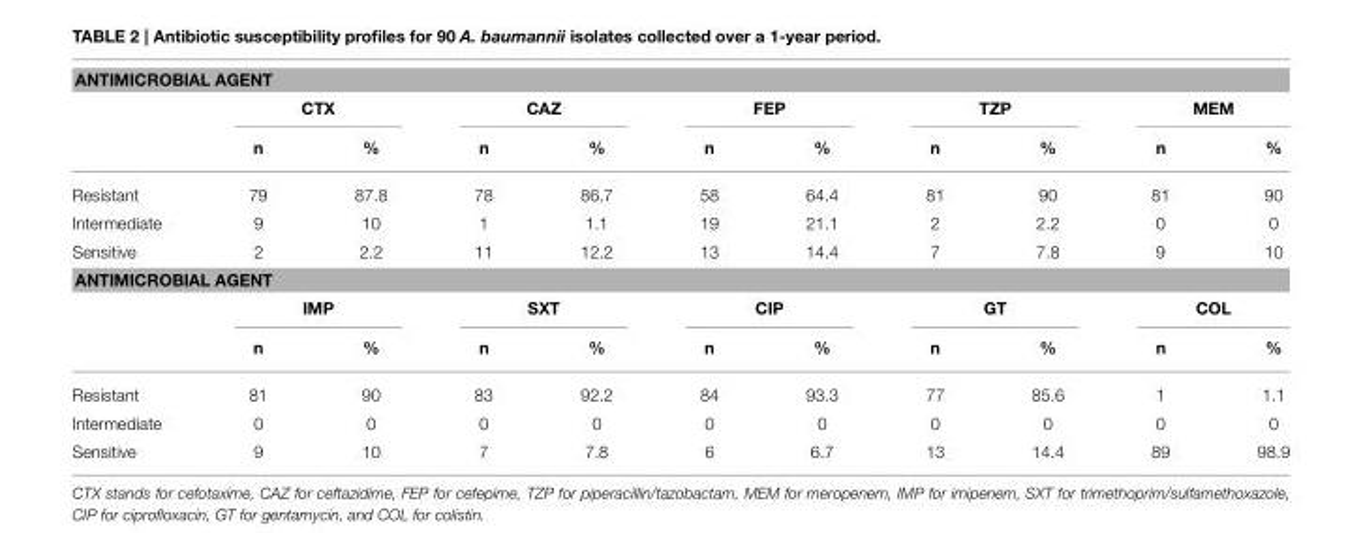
<table><thead><tr><td colspan="11">ANTIMICROBIAL AGENT</td></tr><tr><td rowspan="2"></td><td colspan="2">CTX</td><td colspan="2">CAZ</td><td colspan="2">FEP</td><td colspan="2">TZP</td><td colspan="2">MEM</td></tr><tr><td>n</td><td>%</td><td>n</td><td>%</td><td>n</td><td>%</td><td>n</td><td>%</td><td>n</td><td>%</td></tr></thead><tbody><tr><td>Resistant</td><td>79</td><td>87.8</td><td>78</td><td>86.7</td><td>58</td><td>64.4</td><td>81</td><td>90</td><td>81</td><td>90</td></tr><tr><td>Intermediate</td><td>9</td><td>10</td><td>1</td><td>1.1</td><td>19</td><td>21.1</td><td>2</td><td>2.2</td><td>0</td><td>0</td></tr><tr><td>Sensitive</td><td>2</td><td>2.2</td><td>11</td><td>12.2</td><td>13</td><td>14.4</td><td>7</td><td>7.8</td><td>9</td><td>10</td></tr><tr><td colspan="11">ANTIMICROBIAL AGENT</td></tr><tr><td></td><td colspan="2">IMP</td><td colspan="2">SXT</td><td colspan="2">CIP</td><td colspan="2">GT</td><td colspan="2">COL</td></tr><tr><td></td><td>n</td><td>%</td><td>n</td><td>%</td><td>n</td><td>%</td><td>n</td><td>%</td><td>n</td><td>%</td></tr><tr><td>Resistant</td><td>81</td><td>90</td><td>83</td><td>92.2</td><td>84</td><td>93.3</td><td>77</td><td>85.6</td><td>1</td><td>1.1</td></tr><tr><td>Intermediate</td><td>0</td><td>0</td><td>0</td><td>0</td><td>0</td><td>0</td><td>0</td><td>0</td><td>0</td><td>0</td></tr><tr><td>Sensitive</td><td>9</td><td>10</td><td>7</td><td>7.8</td><td>6</td><td>6.7</td><td>13</td><td>14.4</td><td>89</td><td>98.9</td></tr></tbody></table>